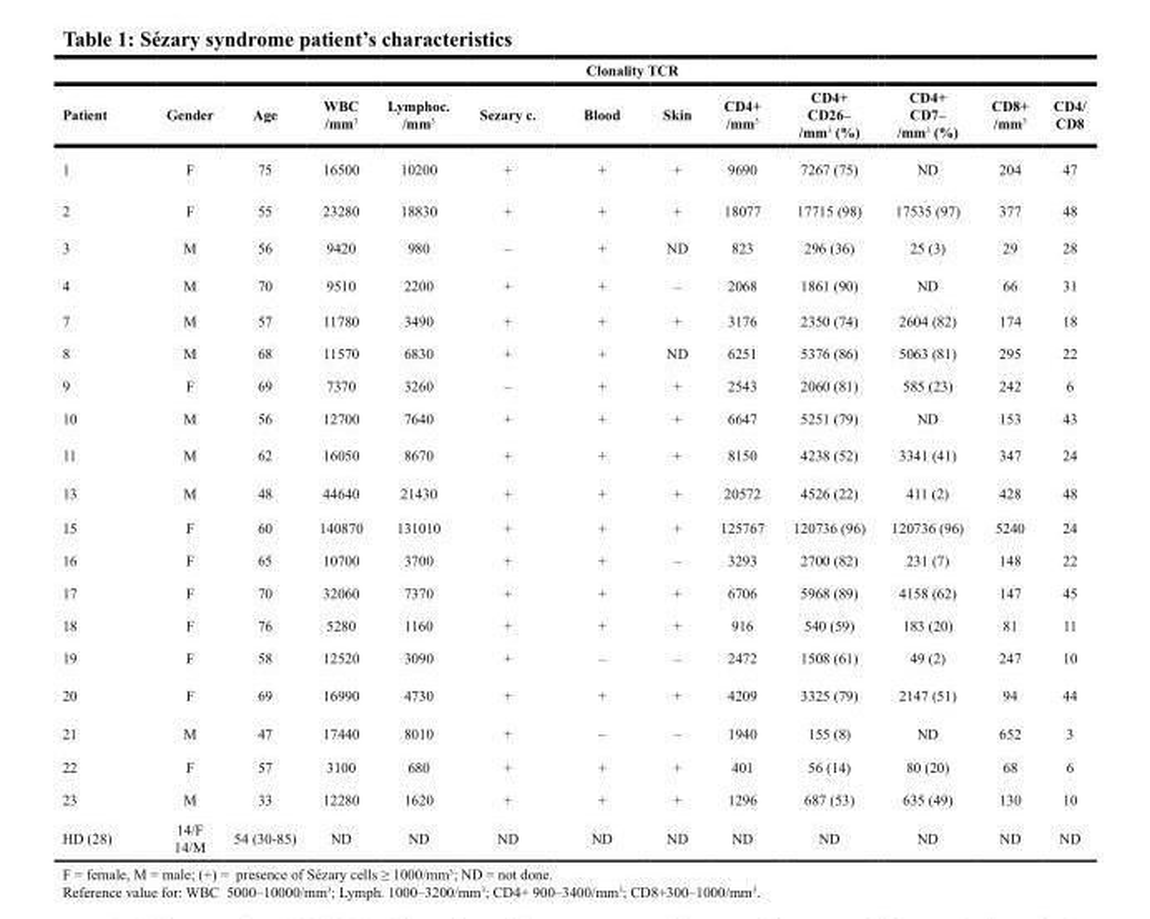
<table><thead><tr><td colspan="13">Clonality TCR</td></tr><tr><td>Patient</td><td>Gender</td><td>Age</td><td>WBC /mm<sup>3</sup></td><td>Lymphoc. /mm<sup>3</sup></td><td>Sezary c.</td><td>Blood</td><td>Skin</td><td>CD4+ /mm<sup>3</sup></td><td>CD4+ CD26– /mm<sup>3</sup> (%)</td><td>CD4+ CD7– /mm<sup>3</sup> (%)</td><td>CD8+ /mm<sup>3</sup></td><td>CD4/ CD8</td></tr></thead><tbody><tr><td>1</td><td>F</td><td>75</td><td>16500</td><td>10200</td><td>+</td><td>+</td><td>+</td><td>9690</td><td>7267 (75)</td><td>ND</td><td>204</td><td>47</td></tr><tr><td>2</td><td>F</td><td>55</td><td>23280</td><td>18830</td><td>+</td><td>+</td><td>+</td><td>18077</td><td>17715 (98)</td><td>17535 (97)</td><td>377</td><td>48</td></tr><tr><td>3</td><td>M</td><td>56</td><td>9420</td><td>980</td><td>–</td><td>+</td><td>ND</td><td>823</td><td>296 (36)</td><td>25 (3)</td><td>29</td><td>28</td></tr><tr><td>4</td><td>M</td><td>70</td><td>9510</td><td>2200</td><td>+</td><td>+</td><td>–</td><td>2068</td><td>1861 (90)</td><td>ND</td><td>66</td><td>31</td></tr><tr><td>7</td><td>M</td><td>57</td><td>11780</td><td>3490</td><td>+</td><td>+</td><td>+</td><td>3176</td><td>2350 (74)</td><td>2604 (82)</td><td>174</td><td>18</td></tr><tr><td>8</td><td>M</td><td>68</td><td>11570</td><td>6830</td><td>+</td><td>+</td><td>ND</td><td>6251</td><td>5376 (86)</td><td>5063 (81)</td><td>295</td><td>22</td></tr><tr><td>9</td><td>F</td><td>69</td><td>7370</td><td>3260</td><td>–</td><td>+</td><td>+</td><td>2543</td><td>2060 (81)</td><td>585 (23)</td><td>242</td><td>6</td></tr><tr><td>10</td><td>M</td><td>56</td><td>12700</td><td>7640</td><td>+</td><td>+</td><td>+</td><td>6647</td><td>5251 (79)</td><td>ND</td><td>153</td><td>43</td></tr><tr><td>11</td><td>M</td><td>62</td><td>16050</td><td>8670</td><td>+</td><td>+</td><td>+</td><td>8150</td><td>4238 (52)</td><td>3341 (41)</td><td>347</td><td>24</td></tr><tr><td>13</td><td>M</td><td>48</td><td>44640</td><td>21430</td><td>+</td><td>+</td><td>+</td><td>20572</td><td>4526 (22)</td><td>411 (2)</td><td>428</td><td>48</td></tr><tr><td>15</td><td>F</td><td>60</td><td>140870</td><td>131010</td><td>+</td><td>+</td><td>+</td><td>125767</td><td>120736 (96)</td><td>120736 (96)</td><td>5240</td><td>24</td></tr><tr><td>16</td><td>F</td><td>65</td><td>10700</td><td>3700</td><td>+</td><td>+</td><td>–</td><td>3293</td><td>2700 (82)</td><td>231 (7)</td><td>148</td><td>22</td></tr><tr><td>17</td><td>F</td><td>70</td><td>32060</td><td>7370</td><td>+</td><td>+</td><td>+</td><td>6706</td><td>5968 (89)</td><td>4158 (62)</td><td>147</td><td>45</td></tr><tr><td>18</td><td>F</td><td>76</td><td>5280</td><td>1160</td><td>+</td><td>+</td><td>+</td><td>916</td><td>540 (59)</td><td>183 (20)</td><td>81</td><td>11</td></tr><tr><td>19</td><td>F</td><td>58</td><td>12520</td><td>3090</td><td>+</td><td>–</td><td>–</td><td>2472</td><td>1508 (61)</td><td>49 (2)</td><td>247</td><td>10</td></tr><tr><td>20</td><td>F</td><td>69</td><td>16990</td><td>4730</td><td>+</td><td>+</td><td>+</td><td>4209</td><td>3325 (79)</td><td>2147 (51)</td><td>94</td><td>44</td></tr><tr><td>21</td><td>M</td><td>47</td><td>17440</td><td>8010</td><td>+</td><td>–</td><td>–</td><td>1940</td><td>155 (8)</td><td>ND</td><td>652</td><td>3</td></tr><tr><td>22</td><td>F</td><td>57</td><td>3100</td><td>680</td><td>+</td><td>+</td><td>+</td><td>401</td><td>56 (14)</td><td>80 (20)</td><td>68</td><td>6</td></tr><tr><td>23</td><td>M</td><td>33</td><td>12280</td><td>1620</td><td>+</td><td>+</td><td>+</td><td>1296</td><td>687 (53)</td><td>635 (49)</td><td>130</td><td>10</td></tr><tr><td>HD (28)</td><td>14/F 14/M</td><td>54 (30-85)</td><td>ND</td><td>ND</td><td>ND</td><td>ND</td><td>ND</td><td>ND</td><td>ND</td><td>ND</td><td>ND</td><td>ND</td></tr></tbody></table>